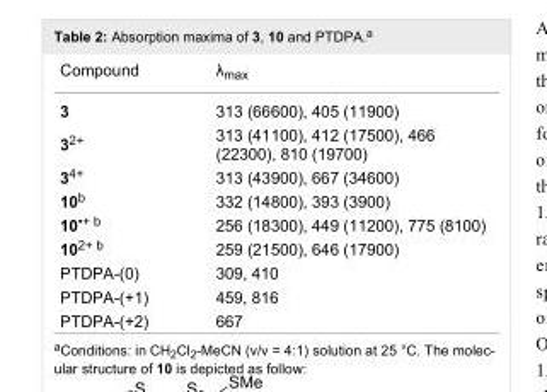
<table><tbody><tr><td>Compound</td><td>λ<sub>max</sub></td></tr><tr><td>3</td><td>313 (66600), 405 (11900)</td></tr><tr><td>3<sup>2+</sup></td><td>313 (41100), 412 (17500), 466 (22300), 810 (19700)</td></tr><tr><td>3<sup>4+</sup></td><td>313 (43900), 667 (34600)</td></tr><tr><td>10<sup>b</sup></td><td>332 (14800), 393 (3900)</td></tr><tr><td>10<sup>•+ b</sup></td><td>256 (18300), 449 (11200), 775 (8100)</td></tr><tr><td>10<sup>2+ b</sup></td><td>259 (21500), 646 (17900)</td></tr><tr><td>PTDPA-(0)</td><td>309, 410</td></tr><tr><td>PTDPA-(+1)</td><td>459, 816</td></tr><tr><td>PTDPA-(+2)</td><td>667</td></tr></tbody></table>